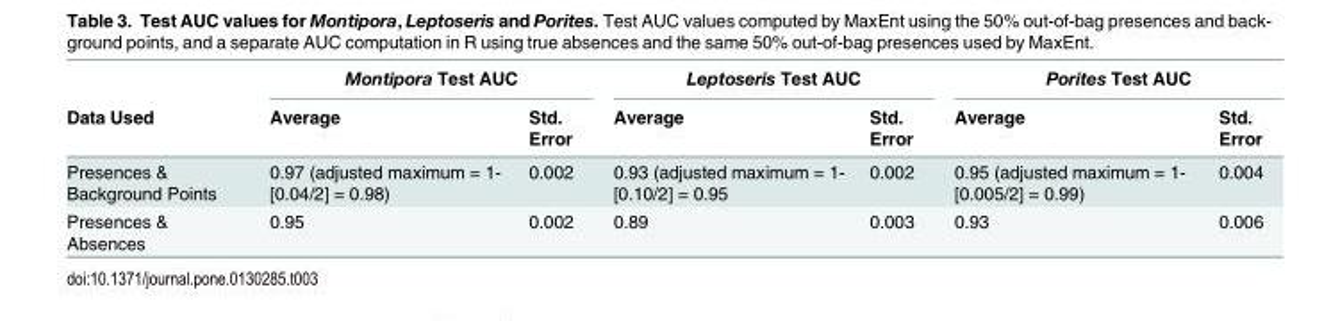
<table><thead><tr><td rowspan="2">Data Used</td><td colspan="2">Montipora Test AUC</td><td colspan="2">Leptoseris Test AUC</td><td colspan="2">Porites Test AUC</td></tr><tr><td>Average</td><td>Std. Error</td><td>Average</td><td>Std. Error</td><td>Average</td><td>Std. Error</td></tr></thead><tbody><tr><td>Presences &amp; Background Points</td><td>0.97 (adjusted maximum = 1- [0.04/2] = 0.98)</td><td>0.002</td><td>0.93 (adjusted maximum = 1- [0.10/2] = 0.95</td><td>0.002</td><td>0.95 (adjusted maximum = 1- [0.005/2] = 0.99)</td><td>0.004</td></tr><tr><td>Presences &amp; Absences</td><td>0.95</td><td>0.002</td><td>0.89</td><td>0.003</td><td>0.93</td><td>0.006</td></tr></tbody></table>